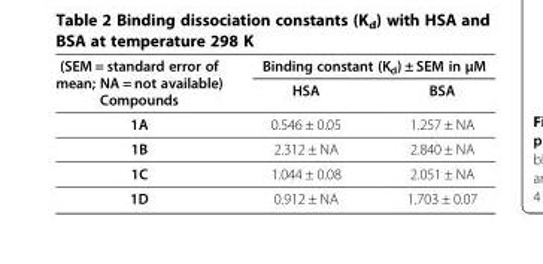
<table><thead><tr><td rowspan="2">(SEM = standard error of mean; NA = not available) Compounds</td><td colspan="2">Binding constant (K<sub>d</sub>) ± SEM in μM</td></tr><tr><td>HSA</td><td>BSA</td></tr></thead><tbody><tr><td>1A</td><td>0.546 ± 0.05</td><td>1.257 ± NA</td></tr><tr><td>1B</td><td>2.312 ± NA</td><td>2.840 ± NA</td></tr><tr><td>1C</td><td>1.044 ± 0.08</td><td>2.051 ± NA</td></tr><tr><td>1D</td><td>0.912 ± NA</td><td>1.703 ± 0.07</td></tr></tbody></table>